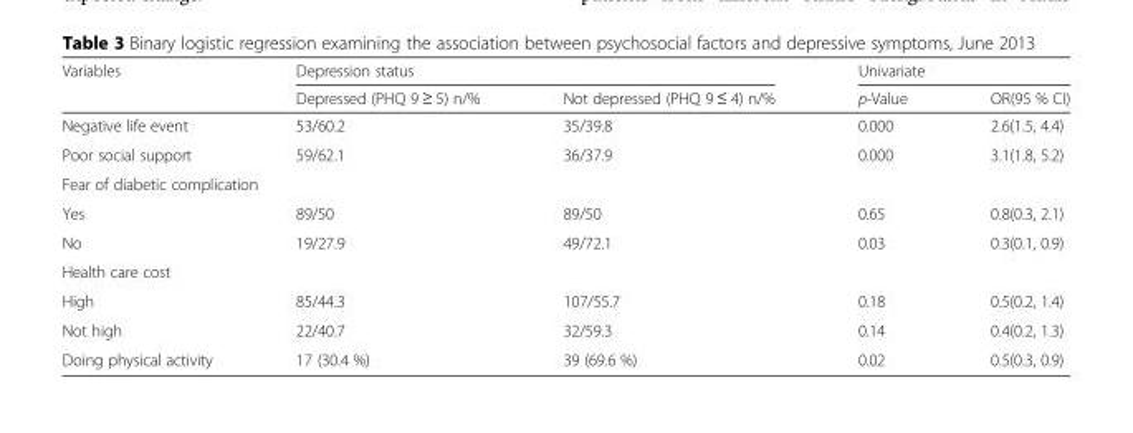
<table><thead><tr><td rowspan="2">Variables</td><td colspan="2">Depression status</td><td colspan="2">Univariate</td></tr><tr><td>Depressed (PHQ 9 ≥ 5) n/%</td><td>Not depressed (PHQ 9 ≤ 4) n/%</td><td>p-Value</td><td>OR(95 % CI)</td></tr></thead><tbody><tr><td>Negative life event</td><td>53/60.2</td><td>35/39.8</td><td>0.000</td><td>2.6(1.5, 4.4)</td></tr><tr><td>Poor social support</td><td>59/62.1</td><td>36/37.9</td><td>0.000</td><td>3.1(1.8, 5.2)</td></tr><tr><td colspan="5">Fear of diabetic complication</td></tr><tr><td>Yes</td><td>89/50</td><td>89/50</td><td>0.65</td><td>0.8(0.3, 2.1)</td></tr><tr><td>No</td><td>19/27.9</td><td>49/72.1</td><td>0.03</td><td>0.3(0.1, 0.9)</td></tr><tr><td colspan="5">Health care cost</td></tr><tr><td>High</td><td>85/44.3</td><td>107/55.7</td><td>0.18</td><td>0.5(0.2, 1.4)</td></tr><tr><td>Not high</td><td>22/40.7</td><td>32/59.3</td><td>0.14</td><td>0.4(0.2, 1.3)</td></tr><tr><td>Doing physical activity</td><td>17 (30.4 %)</td><td>39 (69.6 %)</td><td>0.02</td><td>0.5(0.3, 0.9)</td></tr></tbody></table>